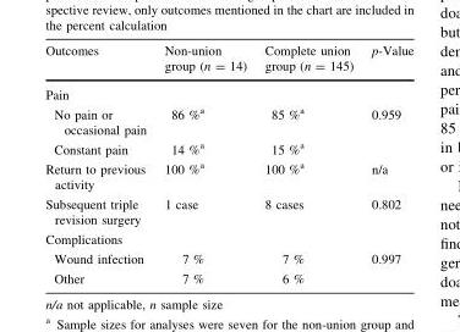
<table><thead><tr><td>Outcomes</td><td>Non-union group (n = 14)</td><td>Complete union group (n = 145)</td><td>p-Value</td></tr></thead><tbody><tr><td colspan="4">Pain</td></tr><tr><td>No pain or occasional pain</td><td>86 %<sup>a</sup></td><td>85 %<sup>a</sup></td><td rowspan="2">0.959</td></tr><tr><td>Constant pain</td><td>14 %<sup>a</sup></td><td>15 %<sup>a</sup></td></tr><tr><td>Return to previous activity</td><td>100 %<sup>a</sup></td><td>100 %<sup>a</sup></td><td>n/a</td></tr><tr><td>Subsequent triple revision surgery</td><td>1 case</td><td>8 cases</td><td>0.802</td></tr><tr><td colspan="4">Complications</td></tr><tr><td>Wound infection</td><td>7 %</td><td>7 %</td><td rowspan="2">0.997</td></tr><tr><td>Other</td><td>7 %</td><td>6 %</td></tr></tbody></table>